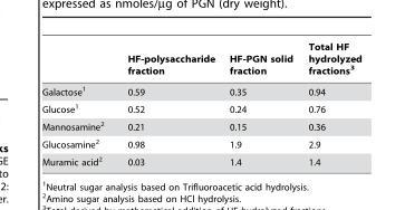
<table><thead><tr><td></td><td>HF-polysaccharide fraction</td><td>HF-PGN solid fraction</td><td>Total HF hydrolyzed fractions<sup>3</sup></td></tr></thead><tbody><tr><td>Galactose<sup>1</sup></td><td>0.59</td><td>0.35</td><td>0.94</td></tr><tr><td>Glucose<sup>1</sup></td><td>0.52</td><td>0.24</td><td>0.76</td></tr><tr><td>Mannosamine<sup>2</sup></td><td>0.21</td><td>0.15</td><td>0.36</td></tr><tr><td>Glucosamine<sup>2</sup></td><td>0.98</td><td>1.9</td><td>2.9</td></tr><tr><td>Muramic acid<sup>2</sup></td><td>0.03</td><td>1.4</td><td>1.4</td></tr></tbody></table>